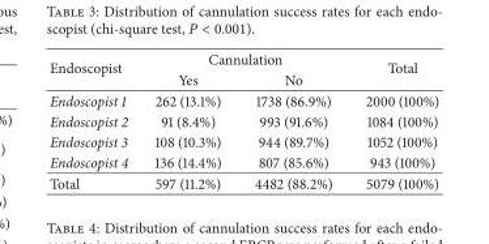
<table><thead><tr><td rowspan="2">Endoscopist</td><td colspan="2">Cannulation</td><td rowspan="2">Total</td></tr><tr><td>Yes</td><td>No</td></tr></thead><tbody><tr><td>Endoscopist 1</td><td>262 (13.1%)</td><td>1738 (86.9%)</td><td>2000 (100%)</td></tr><tr><td>Endoscopist 2</td><td>91 (8.4%)</td><td>993 (91.6%)</td><td>1084 (100%)</td></tr><tr><td>Endoscopist 3</td><td>108 (10.3%)</td><td>944 (89.7%)</td><td>1052 (100%)</td></tr><tr><td>Endoscopist 4</td><td>136 (14.4%)</td><td>807 (85.6%)</td><td>943 (100%)</td></tr><tr><td>Total</td><td>597 (11.2%)</td><td>4482 (88.2%)</td><td>5079 (100%)</td></tr></tbody></table>